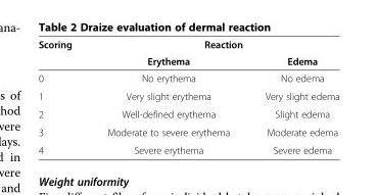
<table><thead><tr><td rowspan="2">Scoring</td><td colspan="2">Reaction</td></tr><tr><td>Erythema</td><td>Edema</td></tr></thead><tbody><tr><td>0</td><td>No erythema</td><td>No edema</td></tr><tr><td>1</td><td>Very slight erythema</td><td>Very slight edema</td></tr><tr><td>2</td><td>Well-defined erythema</td><td>Slight edema</td></tr><tr><td>3</td><td>Moderate to severe erythema</td><td>Moderate edema</td></tr><tr><td>4</td><td>Severe erythema</td><td>Severe edema</td></tr></tbody></table>